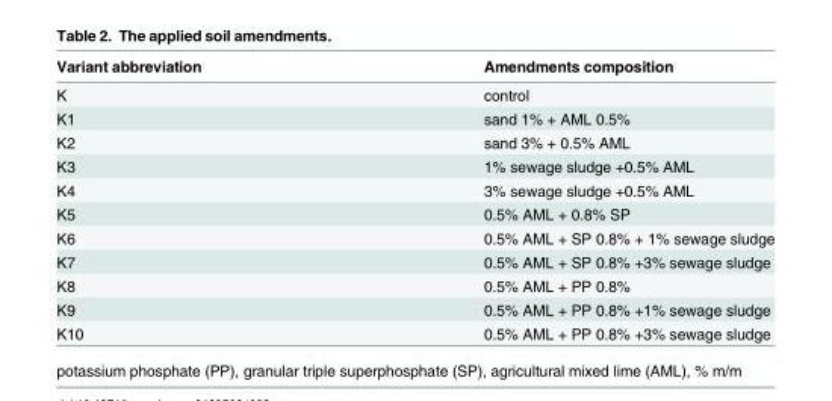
<table><thead><tr><td>Variant abbreviation</td><td>Amendments composition</td></tr></thead><tbody><tr><td>K</td><td>control</td></tr><tr><td>K1</td><td>sand 1% + AML 0.5%</td></tr><tr><td>K2</td><td>sand 3% + 0.5% AML</td></tr><tr><td>K3</td><td>1% sewage sludge +0.5% AML</td></tr><tr><td>K4</td><td>3% sewage sludge +0.5% AML</td></tr><tr><td>K5</td><td>0.5% AML + 0.8% SP</td></tr><tr><td>K6</td><td>0.5% AML + SP 0.8% + 1% sewage sludge</td></tr><tr><td>K7</td><td>0.5% AML + SP 0.8% +3% sewage sludge</td></tr><tr><td>K8</td><td>0.5% AML + PP 0.8%</td></tr><tr><td>K9</td><td>0.5% AML + PP 0.8% +1% sewage sludge</td></tr><tr><td>K10</td><td>0.5% AML + PP 0.8% +3% sewage sludge</td></tr></tbody></table>